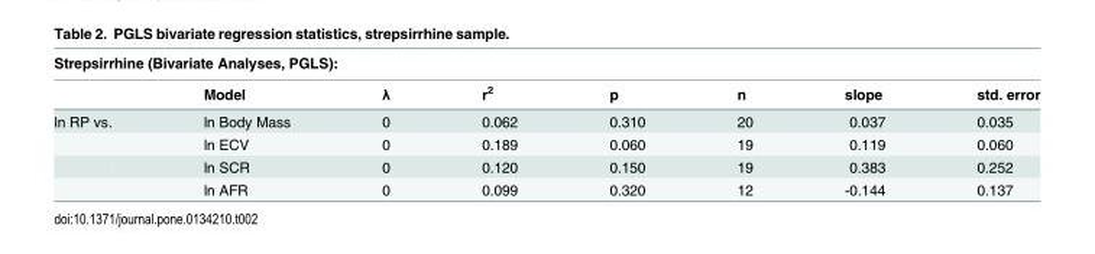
<table><thead><tr><td colspan="8">Strepsirrhine (Bivariate Analyses, PGLS):</td></tr><tr><td></td><td>Model</td><td>λ</td><td>r<sup>2</sup></td><td>p</td><td>n</td><td>slope</td><td>std. error</td></tr></thead><tbody><tr><td rowspan="4">ln RP vs.</td><td>ln Body Mass</td><td>0</td><td>0.062</td><td>0.310</td><td>20</td><td>0.037</td><td>0.035</td></tr><tr><td>ln ECV</td><td>0</td><td>0.189</td><td>0.060</td><td>19</td><td>0.119</td><td>0.060</td></tr><tr><td>ln SCR</td><td>0</td><td>0.120</td><td>0.150</td><td>19</td><td>0.383</td><td>0.252</td></tr><tr><td>ln AFR</td><td>0</td><td>0.099</td><td>0.320</td><td>12</td><td>-0.144</td><td>0.137</td></tr></tbody></table>